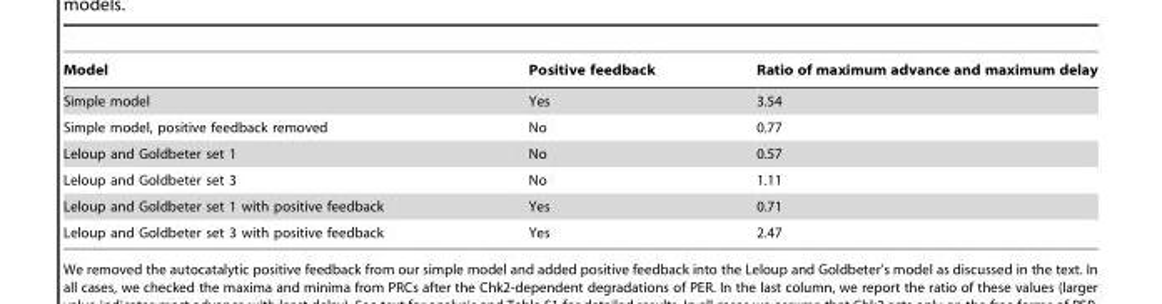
<table><thead><tr><td>Model</td><td>Positive feedback</td><td>Ratio of maximum advance and maximum delay</td></tr></thead><tbody><tr><td>Simple model</td><td>Yes</td><td>3.54</td></tr><tr><td>Simple model, positive feedback removed</td><td>No</td><td>0.77</td></tr><tr><td>Leloup and Goldbeter set 1</td><td>No</td><td>0.57</td></tr><tr><td>Leloup and Goldbeter set 3</td><td>No</td><td>1.11</td></tr><tr><td>Leloup and Goldbeter set 1 with positive feedback</td><td>Yes</td><td>0.71</td></tr><tr><td>Leloup and Goldbeter set 3 with positive feedback</td><td>Yes</td><td>2.47</td></tr></tbody></table>